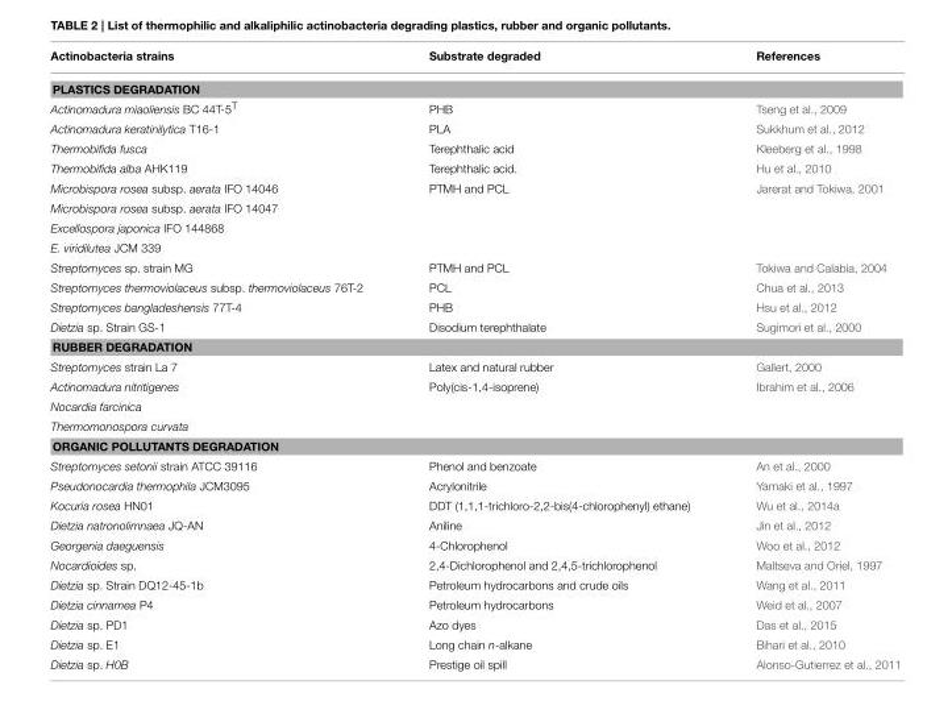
<table><thead><tr><td>Actinobacteria strains</td><td>Substrate degraded</td><td>References</td></tr></thead><tbody><tr><td colspan="3">PLASTICS DEGRADATION</td></tr><tr><td>Actinomadura miaoliensis BC 44T-5<sup>T</sup></td><td>PHB</td><td>Tseng et al., 2009</td></tr><tr><td>Actinomadura keratinilytica T16-1</td><td>PLA</td><td>Sukkhum et al., 2012</td></tr><tr><td>Thermobifida fusca</td><td>Terephthalic acid</td><td>Kleeberg et al., 1998</td></tr><tr><td>Thermobifida alba AHK119</td><td>Terephthalic acid.</td><td>Hu et al., 2010</td></tr><tr><td>Microbispora rosea subsp. aerata IFO 14046</td><td>PTMH and PCL</td><td>Jarerat and Tokiwa, 2001</td></tr><tr><td colspan="3">Microbispora rosea subsp. aerata IFO 14047</td></tr><tr><td colspan="3">Excellospora japonica IFO 144868</td></tr><tr><td colspan="3">E. viridilutea JCM 339</td></tr><tr><td>Streptomyces sp. strain MG</td><td>PTMH and PCL</td><td>Tokiwa and Calabia, 2004</td></tr><tr><td>Streptomyces thermoviolaceus subsp. thermoviolaceus 76T-2</td><td>PCL</td><td>Chua et al., 2013</td></tr><tr><td>Streptomyces bangladeshensis 77T-4</td><td>PHB</td><td>Hsu et al., 2012</td></tr><tr><td>Dietzia sp. Strain GS-1</td><td>Disodium terephthalate</td><td>Sugimori et al., 2000</td></tr><tr><td colspan="3">RUBBER DEGRADATION</td></tr><tr><td>Streptomyces strain La 7</td><td>Latex and natural rubber</td><td>Gallert, 2000</td></tr><tr><td>Actinomadura nitritigenes</td><td>Poly(cis-1,4-isoprene)</td><td>Ibrahim et al., 2006</td></tr><tr><td colspan="3">Nocardia farcinica</td></tr><tr><td colspan="3">Thermomonospora curvata</td></tr><tr><td colspan="3">ORGANIC POLLUTANTS DEGRADATION</td></tr><tr><td>Streptomyces setonii strain ATCC 39116</td><td>Phenol and benzoate</td><td>An et al., 2000</td></tr><tr><td>Pseudonocardia thermophila JCM3095</td><td>Acrylonitrile</td><td>Yamaki et al., 1997</td></tr><tr><td>Kocuria rosea HN01</td><td>DDT (1,1,1-trichloro-2,2-bis(4-chlorophenyl) ethane)</td><td>Wu et al., 2014a</td></tr><tr><td>Dietzia natronolimnaea JQ-AN</td><td>Aniline</td><td>Jin et al., 2012</td></tr><tr><td>Georgenia daeguensis</td><td>4-Chlorophenol</td><td>Woo et al., 2012</td></tr><tr><td>Nocardioides sp.</td><td>2,4-Dichlorophenol and 2,4,5-trichlorophenol</td><td>Maltseva and Oriel, 1997</td></tr><tr><td>Dietzia sp. Strain DQ12-45-1b</td><td>Petroleum hydrocarbons and crude oils</td><td>Wang et al., 2011</td></tr><tr><td>Dietzia cinnamea P4</td><td>Petroleum hydrocarbons</td><td>Weid et al., 2007</td></tr><tr><td>Dietzia sp. PD1</td><td>Azo dyes</td><td>Das et al., 2015</td></tr><tr><td>Dietzia sp. E1</td><td>Long chain n-alkane</td><td>Bihari et al., 2010</td></tr><tr><td>Dietzia sp. H0B</td><td>Prestige oil spill</td><td>Alonso-Gutierrez et al., 2011</td></tr></tbody></table>